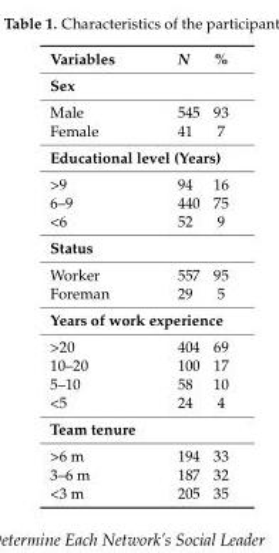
<table><thead><tr><td>Variables</td><td>N</td><td>%</td></tr></thead><tbody><tr><td colspan="3">Sex</td></tr><tr><td>Male</td><td>545</td><td>93</td></tr><tr><td>Female</td><td>41</td><td>7</td></tr><tr><td colspan="3">Educational level (Years)</td></tr><tr><td>&gt;9</td><td>94</td><td>16</td></tr><tr><td>6–9</td><td>440</td><td>75</td></tr><tr><td>&lt;6</td><td>52</td><td>9</td></tr><tr><td colspan="3">Status</td></tr><tr><td>Worker</td><td>557</td><td>95</td></tr><tr><td>Foreman</td><td>29</td><td>5</td></tr><tr><td colspan="3">Years of work experience</td></tr><tr><td>&gt;20</td><td>404</td><td>69</td></tr><tr><td>10–20</td><td>100</td><td>17</td></tr><tr><td>5–10</td><td>58</td><td>10</td></tr><tr><td>&lt;5</td><td>24</td><td>4</td></tr><tr><td colspan="3">Team tenure</td></tr><tr><td>&gt;6 m</td><td>194</td><td>33</td></tr><tr><td>3–6 m</td><td>187</td><td>32</td></tr><tr><td>&lt;3 m</td><td>205</td><td>35</td></tr></tbody></table>